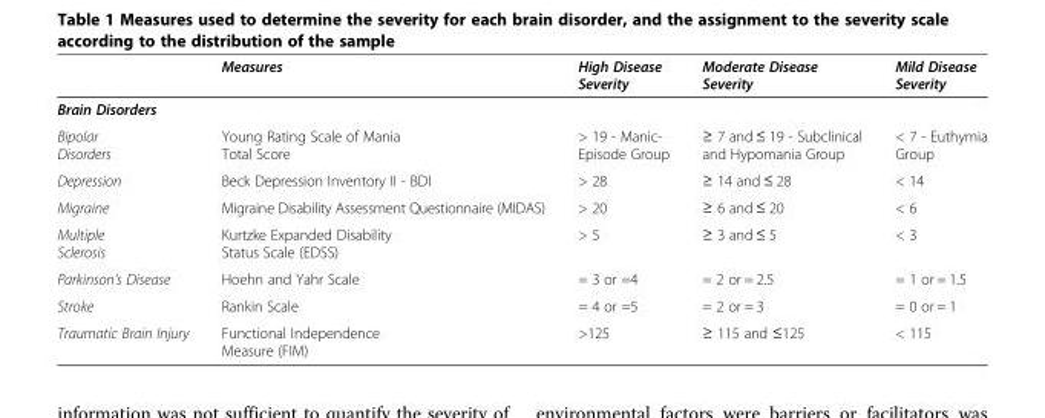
<table><thead><tr><td></td><td>Measures</td><td>High Disease Severity</td><td>Moderate Disease Severity</td><td>Mild Disease Severity</td></tr></thead><tbody><tr><td colspan="5">Brain Disorders</td></tr><tr><td>Bipolar Disorders</td><td>Young Rating Scale of Mania Total Score</td><td>&gt; 19 - Manic- Episode Group</td><td>≥ 7 and ≤ 19 - Subclinical and Hypomania Group</td><td>&lt; 7 - Euthymia Group</td></tr><tr><td>Depression</td><td>Beck Depression Inventory II - BDI</td><td>&gt; 28</td><td>≥ 14 and ≤ 28</td><td>&lt; 14</td></tr><tr><td>Migraine</td><td>Migraine Disability Assessment Questionnaire (MIDAS)</td><td>&gt; 20</td><td>≥ 6 and ≤ 20</td><td>&lt; 6</td></tr><tr><td>Multiple Sclerosis</td><td>Kurtzke Expanded Disability Status Scale (EDSS)</td><td>&gt; 5</td><td>≥ 3 and ≤ 5</td><td>&lt; 3</td></tr><tr><td>Parkinson&#x27;s Disease</td><td>Hoehn and Yahr Scale</td><td>= 3 or =4</td><td>= 2 or = 2.5</td><td>= 1 or = 1.5</td></tr><tr><td>Stroke</td><td>Rankin Scale</td><td>= 4 or =5</td><td>= 2 or = 3</td><td>= 0 or = 1</td></tr><tr><td>Traumatic Brain Injury</td><td>Functional Independence Measure (FIM)</td><td>&gt;125</td><td>≥ 115 and ≤125</td><td>&lt; 115</td></tr></tbody></table>